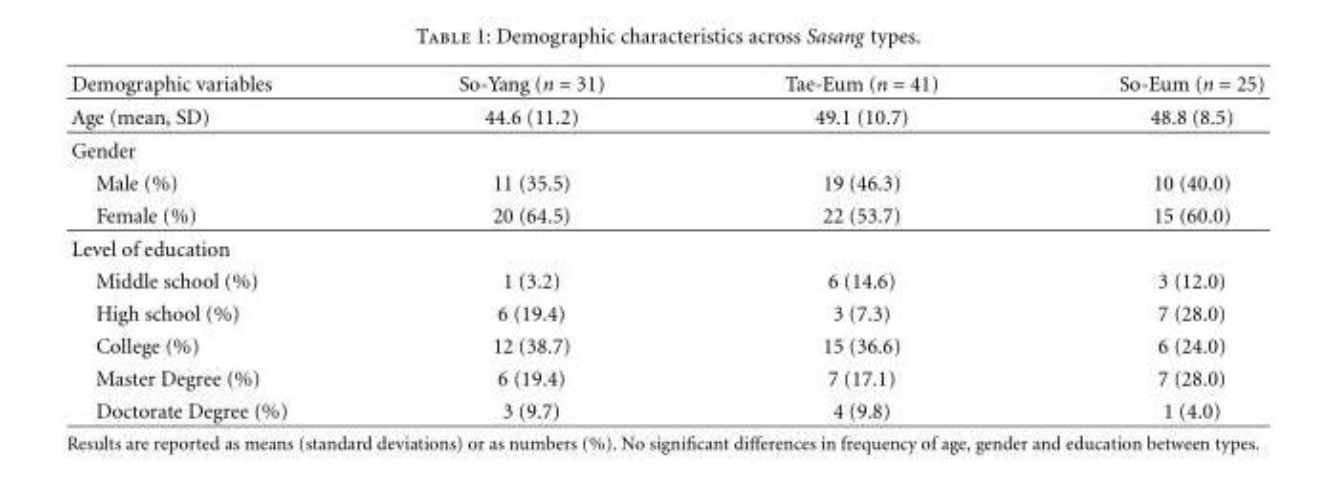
<table><thead><tr><td>Demographic variables</td><td>So-Yang (n = 31)</td><td>Tae-Eum (n = 41)</td><td>So-Eum (n = 25)</td></tr></thead><tbody><tr><td>Age (mean, SD)</td><td>44.6 (11.2)</td><td>49.1 (10.7)</td><td>48.8 (8.5)</td></tr><tr><td colspan="4">Gender</td></tr><tr><td>Male (%)</td><td>11 (35.5)</td><td>19 (46.3)</td><td>10 (40.0)</td></tr><tr><td>Female (%)</td><td>20 (64.5)</td><td>22 (53.7)</td><td>15 (60.0)</td></tr><tr><td colspan="4">Level of education</td></tr><tr><td>Middle school (%)</td><td>1 (3.2)</td><td>6 (14.6)</td><td>3 (12.0)</td></tr><tr><td>High school (%)</td><td>6 (19.4)</td><td>3 (7.3)</td><td>7 (28.0)</td></tr><tr><td>College (%)</td><td>12 (38.7)</td><td>15 (36.6)</td><td>6 (24.0)</td></tr><tr><td>Master Degree (%)</td><td>6 (19.4)</td><td>7 (17.1)</td><td>7 (28.0)</td></tr><tr><td>Doctorate Degree (%)</td><td>3 (9.7)</td><td>4 (9.8)</td><td>1 (4.0)</td></tr></tbody></table>